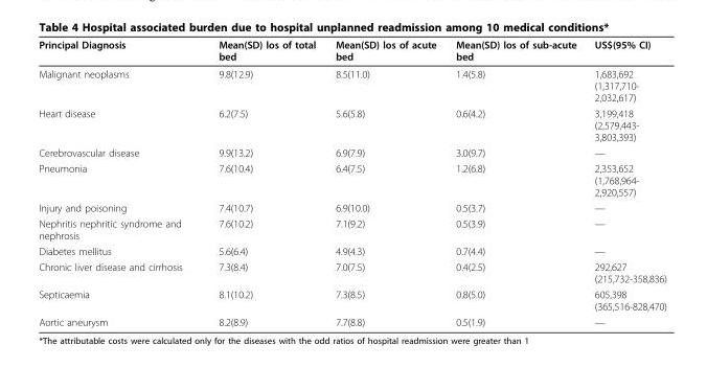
<table><thead><tr><td>Principal Diagnosis</td><td>Mean(SD) los of total bed</td><td>Mean(SD) los of acute bed</td><td>Mean(SD) los of sub-acute bed</td><td>US$(95% CI)</td></tr></thead><tbody><tr><td>Malignant neoplasms</td><td>9.8(12.9)</td><td>8.5(11.0)</td><td>1.4(5.8)</td><td>1,683,692 (1,317,710- 2,032,617)</td></tr><tr><td>Heart disease</td><td>6.2(7.5)</td><td>5.6(5.8)</td><td>0.6(4.2)</td><td>3,199,418 (2,579,443- 3,803,393)</td></tr><tr><td>Cerebrovascular disease</td><td>9.9(13.2)</td><td>6.9(7.9)</td><td>3.0(9.7)</td><td>—</td></tr><tr><td>Pneumonia</td><td>7.6(10.4)</td><td>6.4(7.5)</td><td>1.2(6.8)</td><td>2,353,652 (1,768,964- 2,920,557)</td></tr><tr><td>Injury and poisoning</td><td>7.4(10.7)</td><td>6.9(10.0)</td><td>0.5(3.7)</td><td>—</td></tr><tr><td>Nephritis nephritic syndrome and nephrosis</td><td>7.6(10.2)</td><td>7.1(9.2)</td><td>0.5(3.9)</td><td>—</td></tr><tr><td>Diabetes mellitus</td><td>5.6(6.4)</td><td>4.9(4.3)</td><td>0.7(4.4)</td><td>—</td></tr><tr><td>Chronic liver disease and cirrhosis</td><td>7.3(8.4)</td><td>7.0(7.5)</td><td>0.4(2.5)</td><td>292,627 (215,732-358,836)</td></tr><tr><td>Septicaemia</td><td>8.1(10.2)</td><td>7.3(8.5)</td><td>0.8(5.0)</td><td>605,398 (365,516-828,470)</td></tr><tr><td>Aortic aneurysm</td><td>8.2(8.9)</td><td>7.7(8.8)</td><td>0.5(1.9)</td><td>—</td></tr></tbody></table>